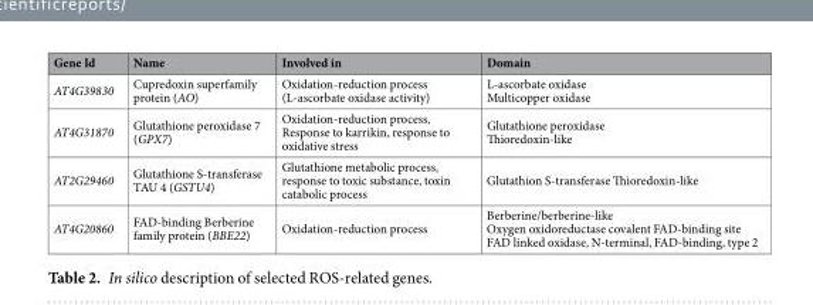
<table><thead><tr><td>Gene Id</td><td>Name</td><td>Involved in</td><td>Domain</td></tr></thead><tbody><tr><td>AT4G39830</td><td>Cupredoxin superfamily protein (AO)</td><td>Oxidation-reduction process (L-ascorbate oxidase activity)</td><td>L-ascorbate oxidase Multicopper oxidase</td></tr><tr><td>AT4G31870</td><td>Glutathione peroxidase 7 (GPX7)</td><td>Oxidation-reduction process, Response to karrikin, response to oxidative stress</td><td>Glutathione peroxidase Thioredoxin-like</td></tr><tr><td>AT2G29460</td><td>Glutathione S-transferase TAU 4 (GSTU4)</td><td>Glutathione metabolic process, response to toxic substance, toxin catabolic process</td><td>Glutathion S-transferase Thioredoxin-like</td></tr><tr><td>AT4G20860</td><td>FAD-binding Berberine family protein (BBE22)</td><td>Oxidation-reduction process</td><td>Berberine/berberine-like Oxygen oxidoreductase covalent FAD-binding site FAD linked oxidase, N-terminal, FAD-binding, type 2</td></tr></tbody></table>